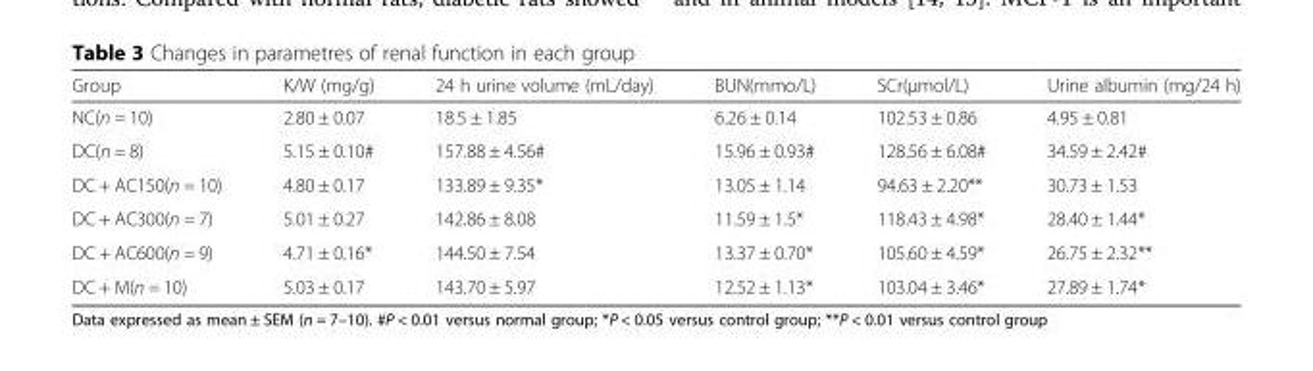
<table><thead><tr><td>Group</td><td>K/W (mg/g)</td><td>24 h urine volume (mL/day)</td><td>BUN(mmo/L)</td><td>SCr(μmol/L)</td><td>Urine albumin (mg/24 h)</td></tr></thead><tbody><tr><td>NC(n = 10)</td><td>2.80 ± 0.07</td><td>18.5 ± 1.85</td><td>6.26 ± 0.14</td><td>102.53 ± 0.86</td><td>4.95 ± 0.81</td></tr><tr><td>DC(n = 8)</td><td>5.15 ± 0.10#</td><td>157.88 ± 4.56#</td><td>15.96 ± 0.93#</td><td>128.56 ± 6.08#</td><td>34.59 ± 2.42#</td></tr><tr><td>DC + AC150(n = 10)</td><td>4.80 ± 0.17</td><td>133.89 ± 9.35*</td><td>13.05 ± 1.14</td><td>94.63 ± 2.20**</td><td>30.73 ± 1.53</td></tr><tr><td>DC + AC300(n = 7)</td><td>5.01 ± 0.27</td><td>142.86 ± 8.08</td><td>11.59 ± 1.5*</td><td>118.43 ± 4.98*</td><td>28.40 ± 1.44*</td></tr><tr><td>DC + AC600(n = 9)</td><td>4.71 ± 0.16*</td><td>144.50 ± 7.54</td><td>13.37 ± 0.70*</td><td>105.60 ± 4.59*</td><td>26.75 ± 2.32**</td></tr><tr><td>DC + M(n = 10)</td><td>5.03 ± 0.17</td><td>143.70 ± 5.97</td><td>12.52 ± 1.13*</td><td>103.04 ± 3.46*</td><td>27.89 ± 1.74*</td></tr></tbody></table>